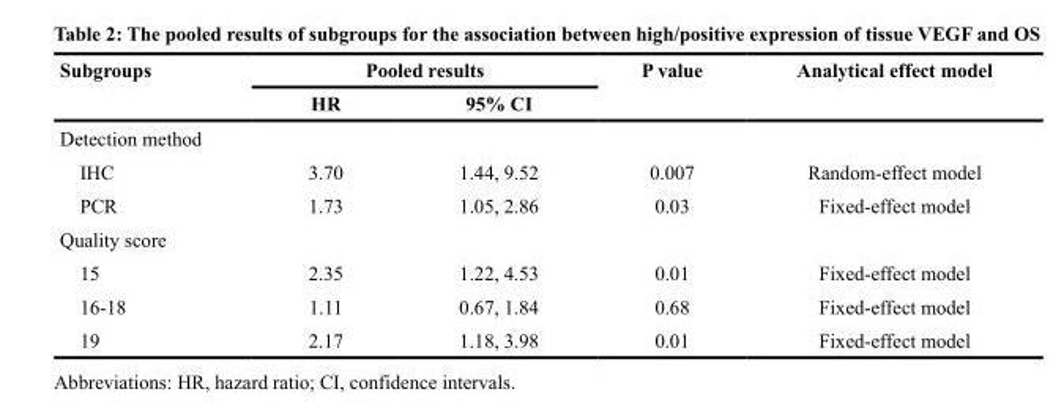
<table><thead><tr><td rowspan="2">Subgroups</td><td colspan="2">Pooled results</td><td rowspan="2">P value</td><td rowspan="2">Analytical effect model</td></tr><tr><td>HR</td><td>95% CI</td></tr></thead><tbody><tr><td colspan="5">Detection method</td></tr><tr><td>IHC</td><td>3.70</td><td>1.44, 9.52</td><td>0.007</td><td>Random-effect model</td></tr><tr><td>PCR</td><td>1.73</td><td>1.05, 2.86</td><td>0.03</td><td>Fixed-effect model</td></tr><tr><td colspan="5">Quality score</td></tr><tr><td>15</td><td>2.35</td><td>1.22, 4.53</td><td>0.01</td><td>Fixed-effect model</td></tr><tr><td>16-18</td><td>1.11</td><td>0.67, 1.84</td><td>0.68</td><td>Fixed-effect model</td></tr><tr><td>19</td><td>2.17</td><td>1.18, 3.98</td><td>0.01</td><td>Fixed-effect model</td></tr></tbody></table>